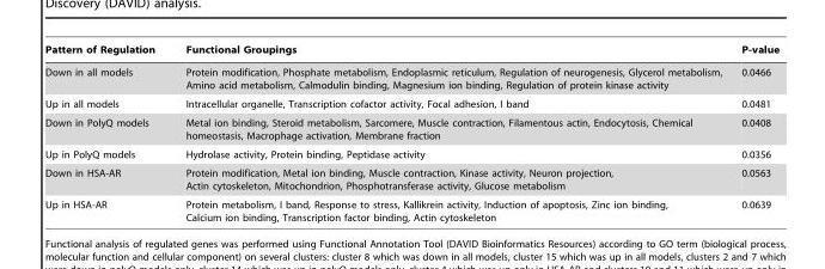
<table><thead><tr><td>Pattern of Regulation</td><td>Functional Groupings</td><td>P-value</td></tr></thead><tbody><tr><td>Down in all models</td><td>Protein modification, Phosphate metabolism, Endoplasmic reticulum, Regulation of neurogenesis, Glycerol metabolism, Amino acid metabolism, Calmodulin binding, Magnesium ion binding, Regulation of protein kinase activity</td><td>0.0466</td></tr><tr><td>Up in all models</td><td>Intracellular organelle, Transcription cofactor activity, Focal adhesion, I band</td><td>0.0481</td></tr><tr><td>Down in PolyQ models</td><td>Metal ion binding, Steroid metabolism, Sarcomere, Muscle contraction, Filamentous actin, Endocytosis, Chemical homeostasis, Macrophage activation, Membrane fraction</td><td>0.0408</td></tr><tr><td>Up in PolyQ models</td><td>Hydrolase activity, Protein binding, Peptidase activity</td><td>0.0356</td></tr><tr><td>Down in HSA-AR</td><td>Protein modification, Metal ion binding, Muscle contraction, Kinase activity, Neuron projection, Actin cytoskeleton, Mitochondrion, Phosphotransferase activity, Glucose metabolism</td><td>0.0563</td></tr><tr><td>Up in HSA-AR</td><td>Protein metabolism, I band, Response to stress, Kallikrein activity, Induction of apoptosis, Zinc ion binding, Calcium ion binding, Transcription factor binding, Actin cytoskeleton</td><td>0.0639</td></tr></tbody></table>